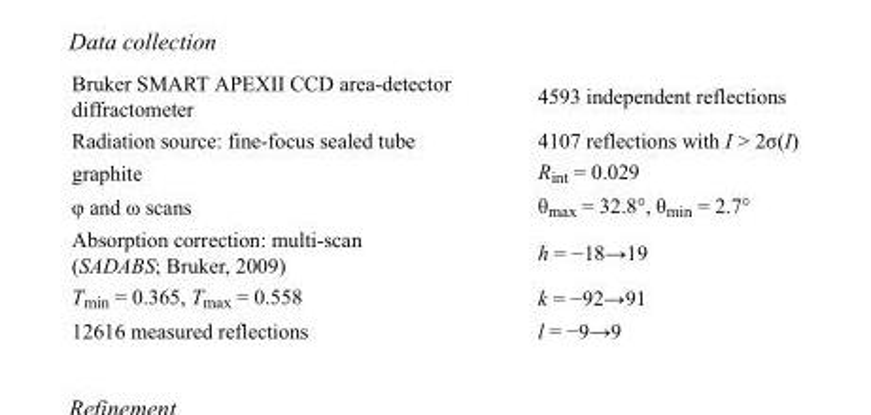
<table><tbody><tr><td>Bruker SMART APEXII CCD area-detector diffractometer</td><td>4593 independent reflections</td></tr><tr><td>Radiation source: fine-focus sealed tube</td><td>4107 reflections with I &gt; 2σ(I)</td></tr><tr><td>graphite</td><td>R<sub>int</sub> = 0.029</td></tr><tr><td>φ and ω scans</td><td>θ<sub>max</sub> = 32.8°, θ<sub>min</sub> = 2.7°</td></tr><tr><td>Absorption correction: multi-scan (SADABS; Bruker, 2009)</td><td>h = −18→19</td></tr><tr><td>T<sub>min</sub> = 0.365, T<sub>max</sub> = 0.558</td><td>k = −92→91</td></tr><tr><td>12616 measured reflections</td><td>l = −9→9</td></tr></tbody></table>